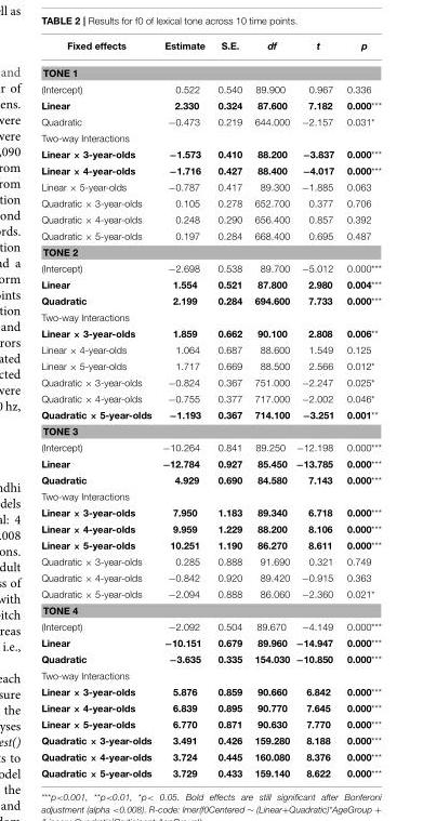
<table><thead><tr><td>Fixed effects</td><td>Estimate</td><td>S.E.</td><td>df</td><td>t</td><td>p</td></tr></thead><tbody><tr><td colspan="6">TONE 1</td></tr><tr><td>(Intercept)</td><td>0.522</td><td>0.540</td><td>89.900</td><td>0.967</td><td>0.336</td></tr><tr><td>Linear</td><td>2.330</td><td>0.324</td><td>87.600</td><td>7.182</td><td>0.000***</td></tr><tr><td>Quadratic</td><td>−0.473</td><td>0.219</td><td>644.000</td><td>−2.157</td><td>0.031*</td></tr><tr><td colspan="6">Two-way Interactions</td></tr><tr><td>Linear × 3-year-olds</td><td>−1.573</td><td>0.410</td><td>88.200</td><td>−3.837</td><td>0.000***</td></tr><tr><td>Linear × 4-year-olds</td><td>−1.716</td><td>0.427</td><td>88.400</td><td>−4.017</td><td>0.000***</td></tr><tr><td>Linear × 5-year-olds</td><td>−0.787</td><td>0.417</td><td>89.300</td><td>−1.885</td><td>0.063</td></tr><tr><td>Quadratic × 3-year-olds</td><td>0.105</td><td>0.278</td><td>652.700</td><td>0.377</td><td>0.706</td></tr><tr><td>Quadratic × 4-year-olds</td><td>0.248</td><td>0.290</td><td>656.400</td><td>0.857</td><td>0.392</td></tr><tr><td>Quadratic × 5-year-olds</td><td>0.197</td><td>0.284</td><td>668.400</td><td>0.695</td><td>0.487</td></tr><tr><td colspan="6">TONE 2</td></tr><tr><td>(Intercept)</td><td>−2.698</td><td>0.538</td><td>89.700</td><td>−5.012</td><td>0.000***</td></tr><tr><td>Linear</td><td>1.554</td><td>0.521</td><td>87.800</td><td>2.980</td><td>0.004***</td></tr><tr><td>Quadratic</td><td>2.199</td><td>0.284</td><td>694.600</td><td>7.733</td><td>0.000***</td></tr><tr><td colspan="6">Two-way Interactions</td></tr><tr><td>Linear × 3-year-olds</td><td>1.859</td><td>0.662</td><td>90.100</td><td>2.808</td><td>0.006**</td></tr><tr><td>Linear × 4-year-olds</td><td>1.064</td><td>0.687</td><td>88.600</td><td>1.549</td><td>0.125</td></tr><tr><td>Linear × 5-year-olds</td><td>1.717</td><td>0.669</td><td>88.500</td><td>2.566</td><td>0.012*</td></tr><tr><td>Quadratic × 3-year-olds</td><td>−0.824</td><td>0.367</td><td>751.000</td><td>−2.247</td><td>0.025*</td></tr><tr><td>Quadratic × 4-year-olds</td><td>−0.755</td><td>0.377</td><td>717.000</td><td>−2.002</td><td>0.046*</td></tr><tr><td>Quadratic × 5-year-olds</td><td>−1.193</td><td>0.367</td><td>714.100</td><td>−3.251</td><td>0.001**</td></tr><tr><td colspan="6">TONE 3</td></tr><tr><td>(Intercept)</td><td>−10.264</td><td>0.841</td><td>89.250</td><td>−12.198</td><td>0.000***</td></tr><tr><td>Linear</td><td>−12.784</td><td>0.927</td><td>85.450</td><td>−13.785</td><td>0.000***</td></tr><tr><td>Quadratic</td><td>4.929</td><td>0.690</td><td>84.580</td><td>7.143</td><td>0.000***</td></tr><tr><td colspan="6">Two-way Interactions</td></tr><tr><td>Linear × 3-year-olds</td><td>7.950</td><td>1.183</td><td>89.340</td><td>6.718</td><td>0.000***</td></tr><tr><td>Linear × 4-year-olds</td><td>9.959</td><td>1.229</td><td>88.200</td><td>8.106</td><td>0.000***</td></tr><tr><td>Linear × 5-year-olds</td><td>10.251</td><td>1.190</td><td>86.270</td><td>8.611</td><td>0.000***</td></tr><tr><td>Quadratic × 3-year-olds</td><td>0.285</td><td>0.888</td><td>91.690</td><td>0.321</td><td>0.749</td></tr><tr><td>Quadratic × 4-year-olds</td><td>−0.842</td><td>0.920</td><td>89.420</td><td>−0.915</td><td>0.363</td></tr><tr><td>Quadratic × 5-year-olds</td><td>−2.094</td><td>0.888</td><td>86.060</td><td>−2.360</td><td>0.021*</td></tr><tr><td colspan="6">TONE 4</td></tr><tr><td>(Intercept)</td><td>−2.092</td><td>0.504</td><td>89.670</td><td>−4.149</td><td>0.000***</td></tr><tr><td>Linear</td><td>−10.151</td><td>0.679</td><td>89.960</td><td>−14.947</td><td>0.000***</td></tr><tr><td>Quadratic</td><td>−3.635</td><td>0.335</td><td>154.030</td><td>−10.850</td><td>0.000***</td></tr><tr><td colspan="6">Two-way Interactions</td></tr><tr><td>Linear × 3-year-olds</td><td>5.876</td><td>0.859</td><td>90.660</td><td>6.842</td><td>0.000***</td></tr><tr><td>Linear × 4-year-olds</td><td>6.839</td><td>0.895</td><td>90.770</td><td>7.645</td><td>0.000***</td></tr><tr><td>Linear × 5-year-olds</td><td>6.770</td><td>0.871</td><td>90.630</td><td>7.770</td><td>0.000***</td></tr><tr><td>Quadratic × 3-year-olds</td><td>3.491</td><td>0.426</td><td>159.280</td><td>8.188</td><td>0.000***</td></tr><tr><td>Quadratic × 4-year-olds</td><td>3.724</td><td>0.445</td><td>160.080</td><td>8.376</td><td>0.000***</td></tr><tr><td>Quadratic × 5-year-olds</td><td>3.729</td><td>0.433</td><td>159.140</td><td>8.622</td><td>0.000***</td></tr></tbody></table>